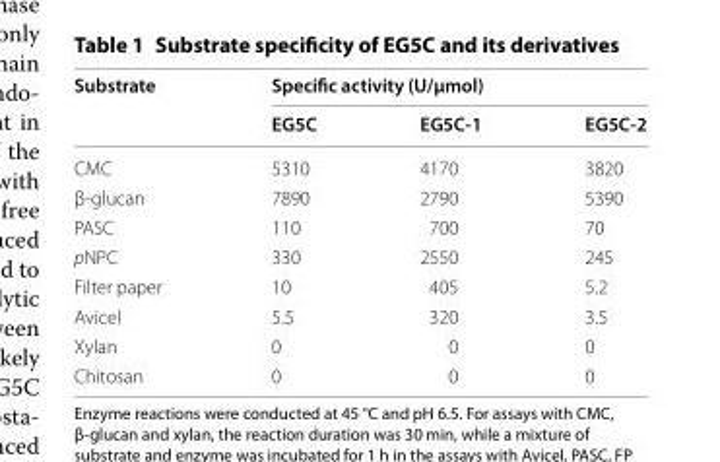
<table><thead><tr><td rowspan="2">Substrate</td><td colspan="3">Specific activity (U/μmol)</td></tr><tr><td>EG5C</td><td>EG5C‑1</td><td>EG5C‑2</td></tr></thead><tbody><tr><td>CMC</td><td>5310</td><td>4170</td><td>3820</td></tr><tr><td>β-glucan</td><td>7890</td><td>2790</td><td>5390</td></tr><tr><td>PASC</td><td>110</td><td>700</td><td>70</td></tr><tr><td>pNPC</td><td>330</td><td>2550</td><td>245</td></tr><tr><td>Filter paper</td><td>10</td><td>405</td><td>5.2</td></tr><tr><td>Avicel</td><td>5.5</td><td>320</td><td>3.5</td></tr><tr><td>Xylan</td><td>0</td><td>0</td><td>0</td></tr><tr><td>Chitosan</td><td>0</td><td>0</td><td>0</td></tr></tbody></table>